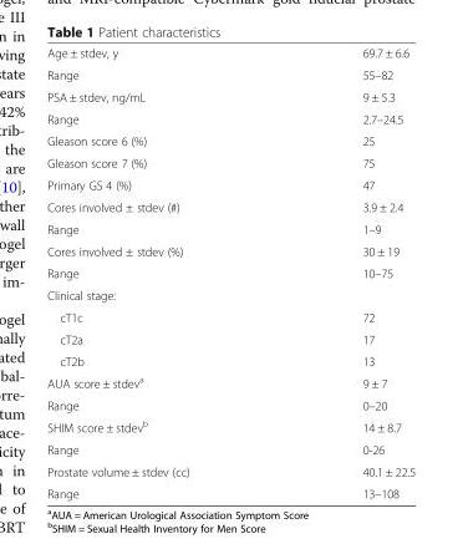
<table><tbody><tr><td>Age ± stdev, y</td><td>69.7 ± 6.6</td></tr><tr><td>Range</td><td>55–82</td></tr><tr><td>PSA ± stdev, ng/mL</td><td>9 ± 5.3</td></tr><tr><td>Range</td><td>2.7–24.5</td></tr><tr><td>Gleason score 6 (%)</td><td>25</td></tr><tr><td>Gleason score 7 (%)</td><td>75</td></tr><tr><td>Primary GS 4 (%)</td><td>47</td></tr><tr><td>Cores involved ± stdev (#)</td><td>3.9 ± 2.4</td></tr><tr><td>Range</td><td>1–9</td></tr><tr><td>Cores involved ± stdev (%)</td><td>30 ± 19</td></tr><tr><td>Range</td><td>10–75</td></tr><tr><td colspan="2">Clinical stage:</td></tr><tr><td>cT1c</td><td>72</td></tr><tr><td>cT2a</td><td>17</td></tr><tr><td>cT2b</td><td>13</td></tr><tr><td>AUA score ± stdev<sup>a</sup></td><td>9 ± 7</td></tr><tr><td>Range</td><td>0–20</td></tr><tr><td>SHIM score ± stdev<sup>b</sup></td><td>14 ± 8.7</td></tr><tr><td>Range</td><td>0-26</td></tr><tr><td>Prostate volume ± stdev (cc)</td><td>40.1 ± 22.5</td></tr><tr><td>Range</td><td>13–108</td></tr></tbody></table>